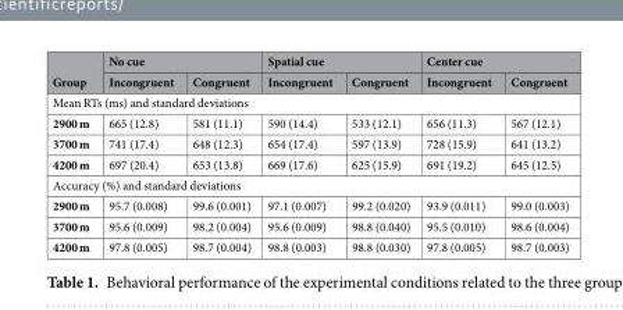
<table><thead><tr><td rowspan="2">Group</td><td colspan="2">No cue</td><td colspan="2">Spatial cue</td><td colspan="2">Center cue</td></tr><tr><td>Incongruent</td><td>Congruent</td><td>Incongruent</td><td>Congruent</td><td>Incongruent</td><td>Congruent</td></tr></thead><tbody><tr><td colspan="7">Mean RTs (ms) and standard deviations</td></tr><tr><td>2900 m</td><td>665 (12.8)</td><td>581 (11.1)</td><td>590 (14.4)</td><td>533 (12.1)</td><td>656 (11.3)</td><td>567 (12.1)</td></tr><tr><td>3700 m</td><td>741 (17.4)</td><td>648 (12.3)</td><td>654 (17.4)</td><td>597 (13.9)</td><td>728 (15.9)</td><td>641 (13.2)</td></tr><tr><td>4200 m</td><td>697 (20.4)</td><td>653 (13.8)</td><td>669 (17.6)</td><td>625 (15.9)</td><td>691 (19.2)</td><td>645 (12.5)</td></tr><tr><td colspan="7">Accuracy (%) and standard deviations</td></tr><tr><td>2900 m</td><td>95.7 (0.008)</td><td>99.6 (0.001)</td><td>97.1 (0.007)</td><td>99.2 (0.020)</td><td>93.9 (0.011)</td><td>99.0 (0.003)</td></tr><tr><td>3700 m</td><td>95.6 (0.009)</td><td>98.2 (0.004)</td><td>95.6 (0.009)</td><td>98.8 (0.040)</td><td>95.5 (0.010)</td><td>98.6 (0.004)</td></tr><tr><td>4200 m</td><td>97.8 (0.005)</td><td>98.7 (0.004)</td><td>98.8 (0.003)</td><td>98.8 (0.030)</td><td>97.8 (0.005)</td><td>98.7 (0.003)</td></tr></tbody></table>